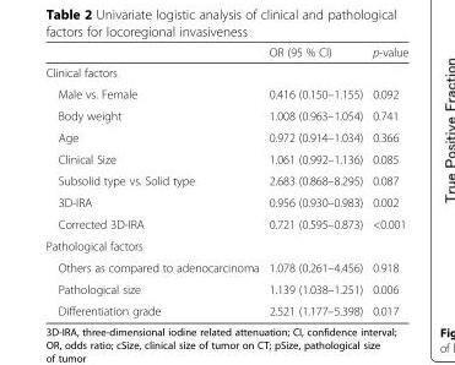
<table><thead><tr><td></td><td>OR (95 % CI)</td><td>p-value</td></tr></thead><tbody><tr><td colspan="3">Clinical factors</td></tr><tr><td>Male vs. Female</td><td>0.416 (0.150–1.155)</td><td>0.092</td></tr><tr><td>Body weight</td><td>1.008 (0.963–1.054)</td><td>0.741</td></tr><tr><td>Age</td><td>0.972 (0.914–1.034)</td><td>0.366</td></tr><tr><td>Clinical Size</td><td>1.061 (0.992–1.136)</td><td>0.085</td></tr><tr><td>Subsolid type vs. Solid type</td><td>2.683 (0.868–8.295)</td><td>0.087</td></tr><tr><td>3D-IRA</td><td>0.956 (0.930–0.983)</td><td>0.002</td></tr><tr><td>Corrected 3D-IRA</td><td>0.721 (0.595–0.873)</td><td>&lt;0.001</td></tr><tr><td colspan="3">Pathological factors</td></tr><tr><td>Others as compared to adenocarcinoma</td><td>1.078 (0.261–4.456)</td><td>0.918</td></tr><tr><td>Pathological size</td><td>1.139 (1.038–1.251)</td><td>0.006</td></tr><tr><td>Differentiation grade</td><td>2.521 (1.177–5.398)</td><td>0.017</td></tr></tbody></table>